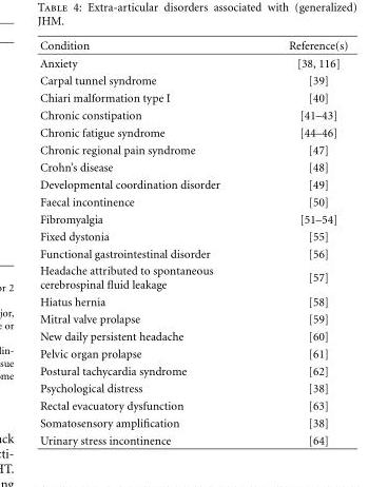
<table><thead><tr><td>Condition</td><td>Reference(s)</td></tr></thead><tbody><tr><td>Anxiety</td><td>[38, 116]</td></tr><tr><td>Carpal tunnel syndrome</td><td>[39]</td></tr><tr><td>Chiari malformation type I</td><td>[40]</td></tr><tr><td>Chronic constipation</td><td>[41–43]</td></tr><tr><td>Chronic fatigue syndrome</td><td>[44–46]</td></tr><tr><td>Chronic regional pain syndrome</td><td>[47]</td></tr><tr><td>Crohn’s disease</td><td>[48]</td></tr><tr><td>Developmental coordination disorder</td><td>[49]</td></tr><tr><td>Faecal incontinence</td><td>[50]</td></tr><tr><td>Fibromyalgia</td><td>[51–54]</td></tr><tr><td>Fixed dystonia</td><td>[55]</td></tr><tr><td>Functional gastrointestinal disorder</td><td>[56]</td></tr><tr><td>Headache attributed to spontaneous cerebrospinal fluid leakage</td><td>[57]</td></tr><tr><td>Hiatus hernia</td><td>[58]</td></tr><tr><td>Mitral valve prolapse</td><td>[59]</td></tr><tr><td>New daily persistent headache</td><td>[60]</td></tr><tr><td>Pelvic organ prolapse</td><td>[61]</td></tr><tr><td>Postural tachycardia syndrome</td><td>[62]</td></tr><tr><td>Psychological distress</td><td>[38]</td></tr><tr><td>Rectal evacuatory dysfunction</td><td>[63]</td></tr><tr><td>Somatosensory amplification</td><td>[38]</td></tr><tr><td>Urinary stress incontinence</td><td>[64]</td></tr></tbody></table>